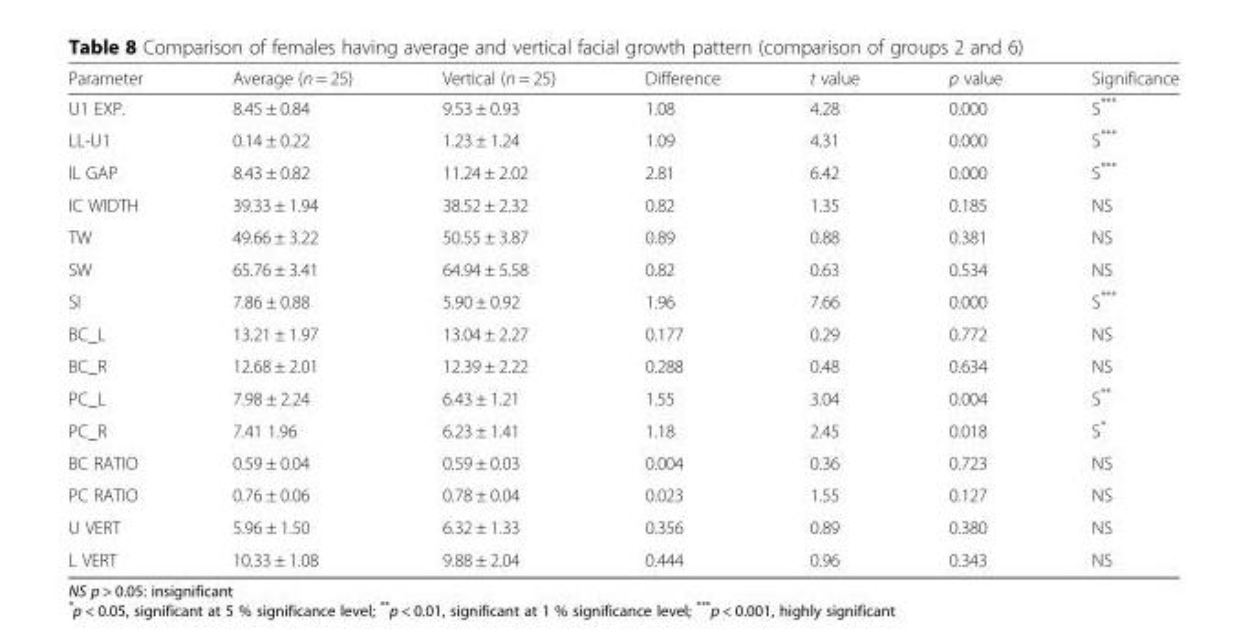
<table><thead><tr><td>Parameter</td><td>Average (n = 25)</td><td>Vertical (n = 25)</td><td>Difference</td><td>t value</td><td>p value</td><td>Significance</td></tr></thead><tbody><tr><td>U1 EXP.</td><td>8.45 ± 0.84</td><td>9.53 ± 0.93</td><td>1.08</td><td>4.28</td><td>0.000</td><td>S***</td></tr><tr><td>LL-U1</td><td>0.14 ± 0.22</td><td>1.23 ± 1.24</td><td>1.09</td><td>4.31</td><td>0.000</td><td>S***</td></tr><tr><td>IL GAP</td><td>8.43 ± 0.82</td><td>11.24 ± 2.02</td><td>2.81</td><td>6.42</td><td>0.000</td><td>S***</td></tr><tr><td>IC WIDTH</td><td>39.33 ± 1.94</td><td>38.52 ± 2.32</td><td>0.82</td><td>1.35</td><td>0.185</td><td>NS</td></tr><tr><td>TW</td><td>49.66 ± 3.22</td><td>50.55 ± 3.87</td><td>0.89</td><td>0.88</td><td>0.381</td><td>NS</td></tr><tr><td>SW</td><td>65.76 ± 3.41</td><td>64.94 ± 5.58</td><td>0.82</td><td>0.63</td><td>0.534</td><td>NS</td></tr><tr><td>SI</td><td>7.86 ± 0.88</td><td>5.90 ± 0.92</td><td>1.96</td><td>7.66</td><td>0.000</td><td>S***</td></tr><tr><td>BC_L</td><td>13.21 ± 1.97</td><td>13.04 ± 2.27</td><td>0.177</td><td>0.29</td><td>0.772</td><td>NS</td></tr><tr><td>BC_R</td><td>12.68 ± 2.01</td><td>12.39 ± 2.22</td><td>0.288</td><td>0.48</td><td>0.634</td><td>NS</td></tr><tr><td>PC_L</td><td>7.98 ± 2.24</td><td>6.43 ± 1.21</td><td>1.55</td><td>3.04</td><td>0.004</td><td>S**</td></tr><tr><td>PC_R</td><td>7.41 1.96</td><td>6.23 ± 1.41</td><td>1.18</td><td>2.45</td><td>0.018</td><td>S*</td></tr><tr><td>BC RATIO</td><td>0.59 ± 0.04</td><td>0.59 ± 0.03</td><td>0.004</td><td>0.36</td><td>0.723</td><td>NS</td></tr><tr><td>PC RATIO</td><td>0.76 ± 0.06</td><td>0.78 ± 0.04</td><td>0.023</td><td>1.55</td><td>0.127</td><td>NS</td></tr><tr><td>U VERT</td><td>5.96 ± 1.50</td><td>6.32 ± 1.33</td><td>0.356</td><td>0.89</td><td>0.380</td><td>NS</td></tr><tr><td>L VERT</td><td>10.33 ± 1.08</td><td>9.88 ± 2.04</td><td>0.444</td><td>0.96</td><td>0.343</td><td>NS</td></tr></tbody></table>